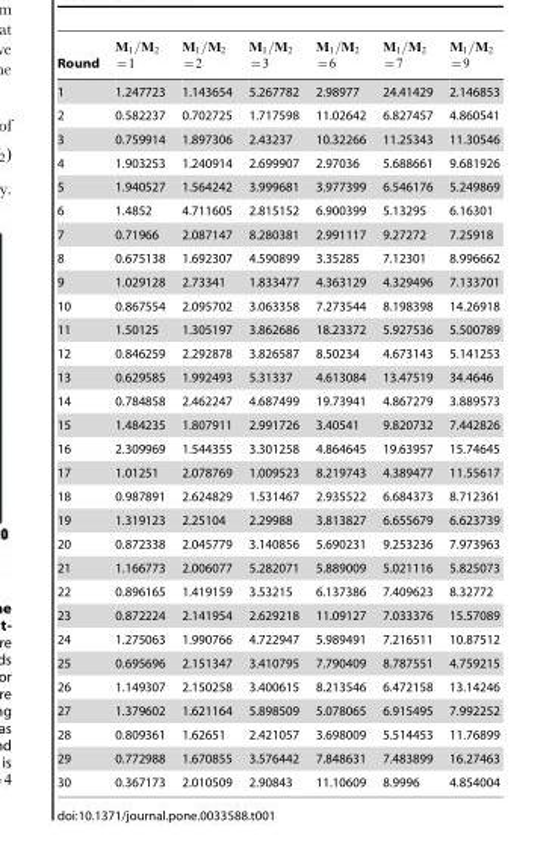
<table><thead><tr><td>Round</td><td>~1</td><td>~2</td><td>~3</td><td>~6</td><td>~7</td><td>~9</td></tr></thead><tbody><tr><td>1</td><td>1.247723</td><td>1.143654</td><td>5.267782</td><td>2.98977</td><td>24.41429</td><td>2.146853</td></tr><tr><td>2</td><td>0.582237</td><td>0.702725</td><td>1.717598</td><td>11.02642</td><td>6.827457</td><td>4.860541</td></tr><tr><td>3</td><td>0.759914</td><td>1.897306</td><td>2.43237</td><td>10.32266</td><td>11.25343</td><td>11.30546</td></tr><tr><td>4</td><td>1.903253</td><td>1.240914</td><td>2.699907</td><td>2.97036</td><td>5.688661</td><td>9.681926</td></tr><tr><td>5</td><td>1.940527</td><td>1.564242</td><td>3.999681</td><td>3.977399</td><td>6.546176</td><td>5.249869</td></tr><tr><td>6</td><td>1.4852</td><td>4.711605</td><td>2.815152</td><td>6.900399</td><td>5.13295</td><td>6.16301</td></tr><tr><td>7</td><td>0.71966</td><td>2.087147</td><td>8.280381</td><td>2.991117</td><td>9.27272</td><td>7.25918</td></tr><tr><td>8</td><td>0.675138</td><td>1.692307</td><td>4.590899</td><td>3.35285</td><td>7.12301</td><td>8.996662</td></tr><tr><td>9</td><td>1.029128</td><td>2.73341</td><td>1.833477</td><td>4.363129</td><td>4.329496</td><td>7.133701</td></tr><tr><td>10</td><td>0.867554</td><td>2.095702</td><td>3.063358</td><td>7.273544</td><td>8.198398</td><td>14.26918</td></tr><tr><td>11</td><td>1.50125</td><td>1.305197</td><td>3.862686</td><td>18.23372</td><td>5.927536</td><td>5.500789</td></tr><tr><td>12</td><td>0.846259</td><td>2.292878</td><td>3.826587</td><td>8.50234</td><td>4.673143</td><td>5.141253</td></tr><tr><td>13</td><td>0.629585</td><td>1.992493</td><td>5.31337</td><td>4.613084</td><td>13.47519</td><td>34.4646</td></tr><tr><td>14</td><td>0.784858</td><td>2.462247</td><td>4.687499</td><td>19.73941</td><td>4.867279</td><td>3.889573</td></tr><tr><td>15</td><td>1.484235</td><td>1.807911</td><td>2.991726</td><td>3.40541</td><td>9.820732</td><td>7.442826</td></tr><tr><td>16</td><td>2.309969</td><td>1.544355</td><td>3.301258</td><td>4.864645</td><td>19.63957</td><td>15.74645</td></tr><tr><td>17</td><td>1.01251</td><td>2.078769</td><td>1.009523</td><td>8.219743</td><td>4.389477</td><td>11.55617</td></tr><tr><td>18</td><td>0.987891</td><td>2.624829</td><td>1.531467</td><td>2.935522</td><td>6.684373</td><td>8.712361</td></tr><tr><td>19</td><td>1.319123</td><td>2.25104</td><td>2.29988</td><td>3.813827</td><td>6.655679</td><td>6.623739</td></tr><tr><td>20</td><td>0.872338</td><td>2.045779</td><td>3.140856</td><td>5.690231</td><td>9.253236</td><td>7.973963</td></tr><tr><td>21</td><td>1.166773</td><td>2.006077</td><td>5.282071</td><td>5.889009</td><td>5.021116</td><td>5.825073</td></tr><tr><td>22</td><td>0.896165</td><td>1.419159</td><td>3.53215</td><td>6.137386</td><td>7.409623</td><td>8.32772</td></tr><tr><td>23</td><td>0.872224</td><td>2.141954</td><td>2.629218</td><td>11.09127</td><td>7.033376</td><td>15.57089</td></tr><tr><td>24</td><td>1.275063</td><td>1.990766</td><td>4.722947</td><td>5.989491</td><td>7.216511</td><td>10.87512</td></tr><tr><td>25</td><td>0.695696</td><td>2.151347</td><td>3.410795</td><td>7.790409</td><td>8.787551</td><td>4.759215</td></tr><tr><td>26</td><td>1.149307</td><td>2.150258</td><td>3.400615</td><td>8.213546</td><td>6.472158</td><td>13.14246</td></tr><tr><td>27</td><td>1.379602</td><td>1.621164</td><td>5.898509</td><td>5.078065</td><td>6.915495</td><td>7.992252</td></tr><tr><td>28</td><td>0.809361</td><td>1.62651</td><td>2.421057</td><td>3.698009</td><td>5.514453</td><td>11.76899</td></tr><tr><td>29</td><td>0.772988</td><td>1.670855</td><td>3.576442</td><td>7.848631</td><td>7.483899</td><td>16.27463</td></tr><tr><td>30</td><td>0.367173</td><td>2.010509</td><td>2.90843</td><td>11.10609</td><td>8.9996</td><td>4.854004</td></tr></tbody></table>